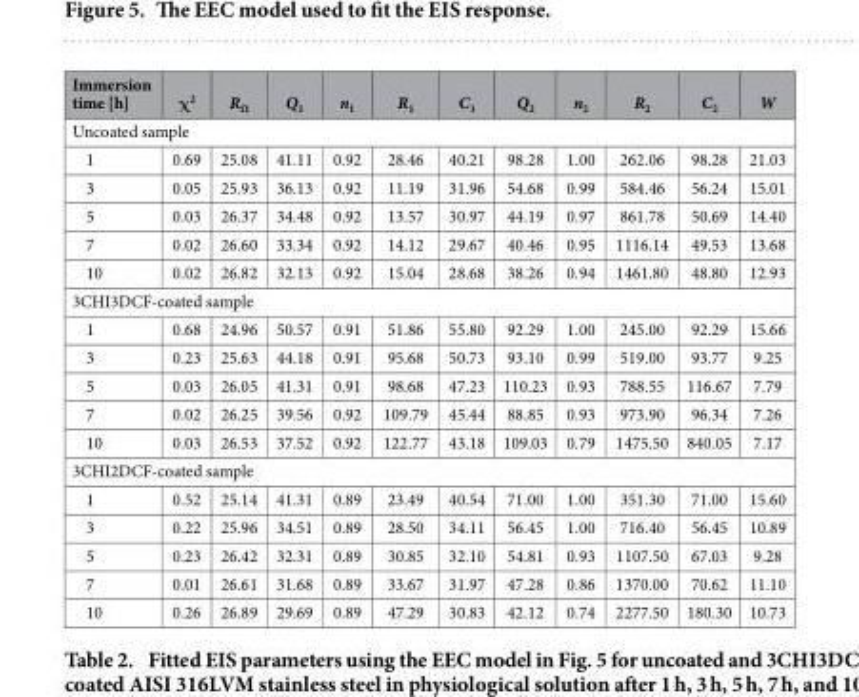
<table><thead><tr><td>Immersion time [h]</td><td>χ<sup>2</sup></td><td>R<sub>Ω</sub></td><td>Q<sub>1</sub></td><td>n<sub>1</sub></td><td>R<sub>1</sub></td><td>C<sub>1</sub></td><td>Q<sub>2</sub></td><td>n<sub>2</sub></td><td>R<sub>2</sub></td><td>C<sub>2</sub></td><td>W</td></tr></thead><tbody><tr><td colspan="12">Uncoated sample</td></tr><tr><td>1</td><td>0.69</td><td>25.08</td><td>41.11</td><td>0.92</td><td>28.46</td><td>40.21</td><td>98.28</td><td>1.00</td><td>262.06</td><td>98.28</td><td>21.03</td></tr><tr><td>3</td><td>0.05</td><td>25.93</td><td>36.13</td><td>0.92</td><td>11.19</td><td>31.96</td><td>54.68</td><td>0.99</td><td>584.46</td><td>56.24</td><td>15.01</td></tr><tr><td>5</td><td>0.03</td><td>26.37</td><td>34.48</td><td>0.92</td><td>13.57</td><td>30.97</td><td>44.19</td><td>0.97</td><td>861.78</td><td>50.69</td><td>14.40</td></tr><tr><td>7</td><td>0.02</td><td>26.60</td><td>33.34</td><td>0.92</td><td>14.12</td><td>29.67</td><td>40.46</td><td>0.95</td><td>1116.14</td><td>49.53</td><td>13.68</td></tr><tr><td>10</td><td>0.02</td><td>26.82</td><td>32.13</td><td>0.92</td><td>15.04</td><td>28.68</td><td>38.26</td><td>0.94</td><td>1461.80</td><td>48.80</td><td>12.93</td></tr><tr><td colspan="12">3CHI3DCF-coated sample</td></tr><tr><td>1</td><td>0.68</td><td>24.96</td><td>50.57</td><td>0.91</td><td>51.86</td><td>55.80</td><td>92.29</td><td>1.00</td><td>245.00</td><td>92.29</td><td>15.66</td></tr><tr><td>3</td><td>0.23</td><td>25.63</td><td>44.18</td><td>0.91</td><td>95.68</td><td>50.73</td><td>93.10</td><td>0.99</td><td>519.00</td><td>93.77</td><td>9.25</td></tr><tr><td>5</td><td>0.03</td><td>26.05</td><td>41.31</td><td>0.91</td><td>98.68</td><td>47.23</td><td>110.23</td><td>0.93</td><td>788.55</td><td>116.67</td><td>7.79</td></tr><tr><td>7</td><td>0.02</td><td>26.25</td><td>39.56</td><td>0.92</td><td>109.79</td><td>45.44</td><td>88.85</td><td>0.93</td><td>973.90</td><td>96.34</td><td>7.26</td></tr><tr><td>10</td><td>0.03</td><td>26.53</td><td>37.52</td><td>0.92</td><td>122.77</td><td>43.18</td><td>109.03</td><td>0.79</td><td>1475.50</td><td>840.05</td><td>7.17</td></tr><tr><td colspan="12">3CHI2DCF-coated sample</td></tr><tr><td>1</td><td>0.52</td><td>25.14</td><td>41.31</td><td>0.89</td><td>23.49</td><td>40.54</td><td>71.00</td><td>1.00</td><td>351.30</td><td>71.00</td><td>15.60</td></tr><tr><td>3</td><td>0.22</td><td>25.96</td><td>34.51</td><td>0.89</td><td>28.50</td><td>34.11</td><td>56.45</td><td>1.00</td><td>716.40</td><td>56.45</td><td>10.89</td></tr><tr><td>5</td><td>0.23</td><td>26.42</td><td>32.31</td><td>0.89</td><td>30.85</td><td>32.10</td><td>54.81</td><td>0.93</td><td>1107.50</td><td>67.03</td><td>9.28</td></tr><tr><td>7</td><td>0.01</td><td>26.61</td><td>31.68</td><td>0.89</td><td>33.67</td><td>31.97</td><td>47.28</td><td>0.86</td><td>1370.00</td><td>70.62</td><td>11.10</td></tr><tr><td>10</td><td>0.26</td><td>26.89</td><td>29.69</td><td>0.89</td><td>47.29</td><td>30.83</td><td>42.12</td><td>0.74</td><td>2277.50</td><td>180.30</td><td>10.73</td></tr></tbody></table>